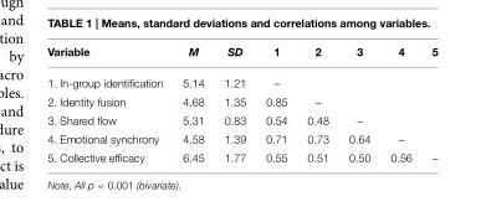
<table><thead><tr><td>Variable</td><td>M</td><td>SD</td><td>1</td><td>2</td><td>3</td><td>4</td><td>5</td></tr></thead><tbody><tr><td>1. In-group identification</td><td>5.14</td><td>1.21</td><td>–</td><td></td><td></td><td></td><td></td></tr><tr><td>2. Identity fusion</td><td>4.68</td><td>1.35</td><td>0.85</td><td>–</td><td></td><td></td><td></td></tr><tr><td>3. Shared flow</td><td>5.31</td><td>0.83</td><td>0.54</td><td>0.48</td><td>–</td><td></td><td></td></tr><tr><td>4. Emotional synchrony</td><td>4.58</td><td>1.39</td><td>0.71</td><td>0.73</td><td>0.64</td><td>–</td><td></td></tr><tr><td>5. Collective efficacy</td><td>6.45</td><td>1.77</td><td>0.55</td><td>0.51</td><td>0.50</td><td>0.56</td><td>–</td></tr></tbody></table>